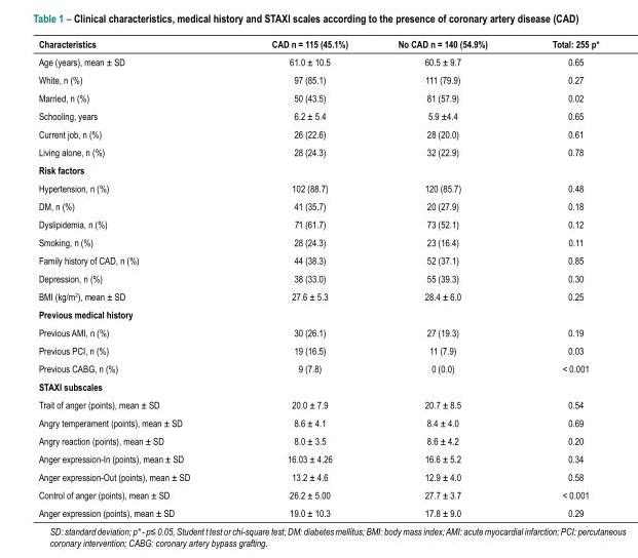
<table><thead><tr><td>Characteristics</td><td>CAD n = 115 (45.1%)</td><td>No CAD n = 140 (54.9%)</td><td>Total: 255 p*</td></tr></thead><tbody><tr><td>Age (years), mean ± SD</td><td>61.0 ± 10.5</td><td>60.5 ± 9.7</td><td>0.65</td></tr><tr><td>White, n (%)</td><td>97 (85.1)</td><td>111 (79.9)</td><td>0.27</td></tr><tr><td>Married, n (%)</td><td>50 (43.5)</td><td>81 (57.9)</td><td>0.02</td></tr><tr><td>Schooling, years</td><td>6.2 ± 5.4</td><td>5.9 ±4.4</td><td>0.65</td></tr><tr><td>Current job, n (%)</td><td>26 (22.6)</td><td>28 (20.0)</td><td>0.61</td></tr><tr><td>Living alone, n (%)</td><td>28 (24.3)</td><td>32 (22.9)</td><td>0.78</td></tr><tr><td colspan="4">Risk factors</td></tr><tr><td>Hypertension, n (%)</td><td>102 (88.7)</td><td>120 (85.7)</td><td>0.48</td></tr><tr><td>DM, n (%)</td><td>41 (35.7)</td><td>20 (27.9)</td><td>0.18</td></tr><tr><td>Dyslipidemia, n (%)</td><td>71 (61.7)</td><td>73 (52.1)</td><td>0.12</td></tr><tr><td>Smoking, n (%)</td><td>28 (24.3)</td><td>23 (16.4)</td><td>0.11</td></tr><tr><td>Family history of CAD, n (%)</td><td>44 (38.3)</td><td>52 (37.1)</td><td>0.85</td></tr><tr><td>Depression, n (%)</td><td>38 (33.0)</td><td>55 (39.3)</td><td>0.30</td></tr><tr><td>BMI (kg/m<sup>2</sup>), mean ± SD</td><td>27.6 ± 5.3</td><td>28.4 ± 6.0</td><td>0.25</td></tr><tr><td colspan="4">Previous medical history</td></tr><tr><td>Previous AMI, n (%)</td><td>30 (26.1)</td><td>27 (19.3)</td><td>0.19</td></tr><tr><td>Previous PCI, n (%)</td><td>19 (16.5)</td><td>11 (7.9)</td><td>0.03</td></tr><tr><td>Previous CABG, n (%)</td><td>9 (7.8)</td><td>0 (0.0)</td><td>&lt; 0.001</td></tr><tr><td colspan="4">STAXI subscales</td></tr><tr><td>Trait of anger (points), mean ± SD</td><td>20.0 ± 7.9</td><td>20.7 ± 8.5</td><td>0.54</td></tr><tr><td>Angry temperament (points), mean ± SD</td><td>8.6 ± 4.1</td><td>8.4 ± 4.0</td><td>0.69</td></tr><tr><td>Angry reaction (points), mean ± SD</td><td>8.0 ± 3.5</td><td>8.6 ± 4.2</td><td>0.20</td></tr><tr><td>Anger expression-In (points), mean ± SD</td><td>16.03 ± 4.26</td><td>16.6 ± 5.2</td><td>0.34</td></tr><tr><td>Anger expression-Out (points), mean ± SD</td><td>13.2 ± 4.6</td><td>12.9 ± 4.0</td><td>0.58</td></tr><tr><td>Control of anger (points), mean ± SD</td><td>26.2 ± 5.00</td><td>27.7 ± 3.7</td><td>&lt; 0.001</td></tr><tr><td>Anger expression (points), mean ± SD</td><td>19.0 ± 10.3</td><td>17.8 ± 9.0</td><td>0.29</td></tr></tbody></table>